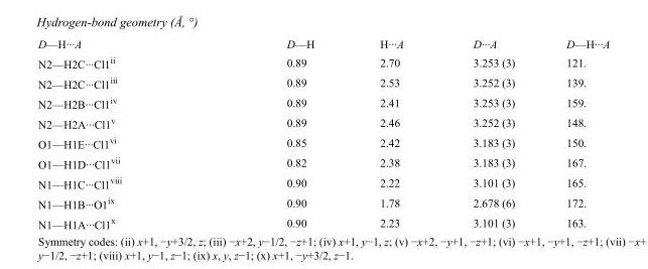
<table><tbody><tr><td>D—H···A</td><td>D—H</td><td>H···A</td><td>D···A</td><td>D—H···A</td></tr><tr><td>N2—H2C···Cl1<sup>ii</sup></td><td>0.89</td><td>2.70</td><td>3.253 (3)</td><td>121.</td></tr><tr><td>N2—H2C···Cl1<sup>iii</sup></td><td>0.89</td><td>2.53</td><td>3.252 (3)</td><td>139.</td></tr><tr><td>N2—H2B···Cl1<sup>iv</sup></td><td>0.89</td><td>2.41</td><td>3.253 (3)</td><td>159.</td></tr><tr><td>N2—H2A···Cl1<sup>v</sup></td><td>0.89</td><td>2.46</td><td>3.252 (3)</td><td>148.</td></tr><tr><td>O1—H1E···Cl1<sup>vi</sup></td><td>0.85</td><td>2.42</td><td>3.183 (3)</td><td>150.</td></tr><tr><td>O1—H1D···Cl1<sup>vii</sup></td><td>0.82</td><td>2.38</td><td>3.183 (3)</td><td>167.</td></tr><tr><td>N1—H1C···Cl1<sup>viii</sup></td><td>0.90</td><td>2.22</td><td>3.101 (3)</td><td>165.</td></tr><tr><td>N1—H1B···O1<sup>ix</sup></td><td>0.90</td><td>1.78</td><td>2.678 (6)</td><td>172.</td></tr><tr><td>N1—H1A···Cl1<sup>x</sup></td><td>0.90</td><td>2.23</td><td>3.101 (3)</td><td>163.</td></tr></tbody></table>